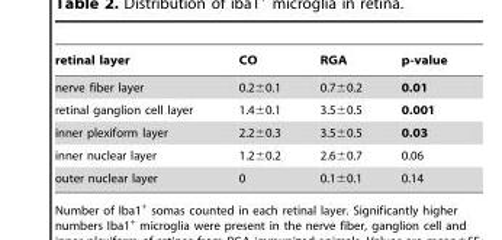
<table><thead><tr><td>retinal layer</td><td>CO</td><td>RGA</td><td>p-value</td></tr></thead><tbody><tr><td>nerve fiber layer</td><td>0.2±0.1</td><td>0.7±0.2</td><td>0.01</td></tr><tr><td>retinal ganglion cell layer</td><td>1.4±0.1</td><td>3.5±0.5</td><td>0.001</td></tr><tr><td>inner plexiform layer</td><td>2.2±0.3</td><td>3.5±0.5</td><td>0.03</td></tr><tr><td>inner nuclear layer</td><td>1.2±0.2</td><td>2.6±0.7</td><td>0.06</td></tr><tr><td>outer nuclear layer</td><td>0</td><td>0.1±0.1</td><td>0.14</td></tr></tbody></table>